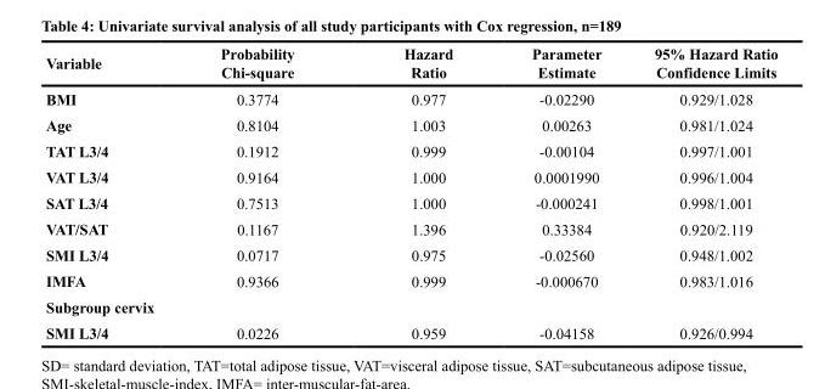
<table><thead><tr><td>Variable</td><td>Probability Chi-square</td><td>Hazard Ratio</td><td>Parameter Estimate</td><td>95% Hazard Ratio Confidence Limits</td></tr></thead><tbody><tr><td>BMI</td><td>0.3774</td><td>0.977</td><td>-0.02290</td><td>0.929/1.028</td></tr><tr><td>Age</td><td>0.8104</td><td>1.003</td><td>0.00263</td><td>0.981/1.024</td></tr><tr><td>TAT L3/4</td><td>0.1912</td><td>0.999</td><td>-0.00104</td><td>0.997/1.001</td></tr><tr><td>VAT L3/4</td><td>0.9164</td><td>1.000</td><td>0.0001990</td><td>0.996/1.004</td></tr><tr><td>SAT L3/4</td><td>0.7513</td><td>1.000</td><td>-0.000241</td><td>0.998/1.001</td></tr><tr><td>VAT/SAT</td><td>0.1167</td><td>1.396</td><td>0.33384</td><td>0.920/2.119</td></tr><tr><td>SMI L3/4</td><td>0.0717</td><td>0.975</td><td>-0.02560</td><td>0.948/1.002</td></tr><tr><td>IMFA</td><td>0.9366</td><td>0.999</td><td>-0.000670</td><td>0.983/1.016</td></tr><tr><td colspan="5">Subgroup cervix</td></tr><tr><td>SMI L3/4</td><td>0.0226</td><td>0.959</td><td>-0.04158</td><td>0.926/0.994</td></tr></tbody></table>